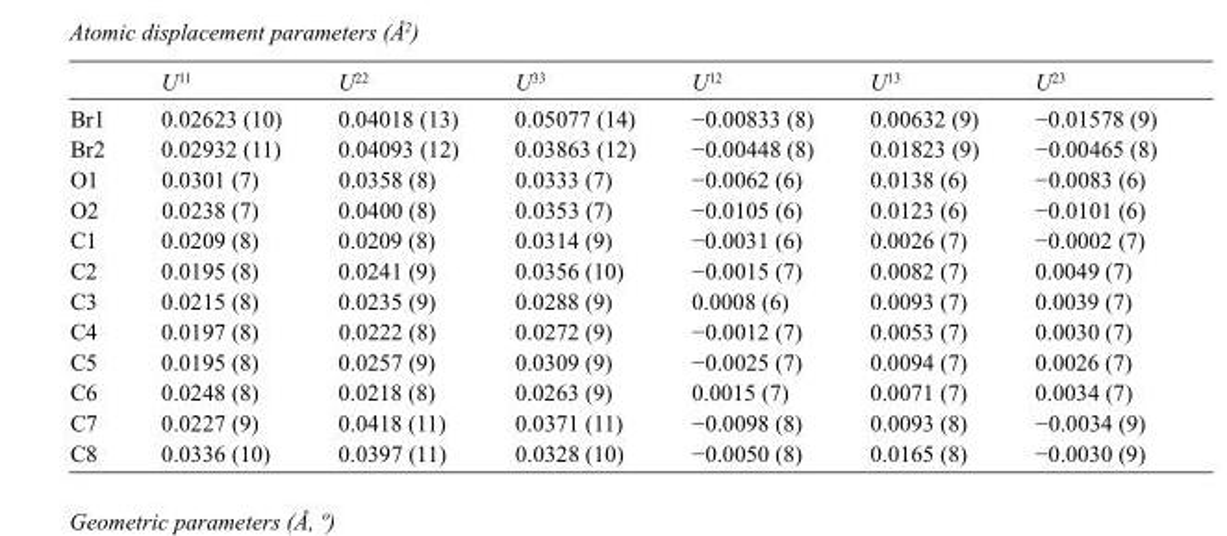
<table><thead><tr><td></td><td>U<sup>11</sup></td><td>U<sup>22</sup></td><td>U<sup>33</sup></td><td>U<sup>12</sup></td><td>U<sup>13</sup></td><td>U<sup>23</sup></td></tr></thead><tbody><tr><td>Br1</td><td>0.02623 (10)</td><td>0.04018 (13)</td><td>0.05077 (14)</td><td>−0.00833 (8)</td><td>0.00632 (9)</td><td>−0.01578 (9)</td></tr><tr><td>Br2</td><td>0.02932 (11)</td><td>0.04093 (12)</td><td>0.03863 (12)</td><td>−0.00448 (8)</td><td>0.01823 (9)</td><td>−0.00465 (8)</td></tr><tr><td>O1</td><td>0.0301 (7)</td><td>0.0358 (8)</td><td>0.0333 (7)</td><td>−0.0062 (6)</td><td>0.0138 (6)</td><td>−0.0083 (6)</td></tr><tr><td>O2</td><td>0.0238 (7)</td><td>0.0400 (8)</td><td>0.0353 (7)</td><td>−0.0105 (6)</td><td>0.0123 (6)</td><td>−0.0101 (6)</td></tr><tr><td>C1</td><td>0.0209 (8)</td><td>0.0209 (8)</td><td>0.0314 (9)</td><td>−0.0031 (6)</td><td>0.0026 (7)</td><td>−0.0002 (7)</td></tr><tr><td>C2</td><td>0.0195 (8)</td><td>0.0241 (9)</td><td>0.0356 (10)</td><td>−0.0015 (7)</td><td>0.0082 (7)</td><td>0.0049 (7)</td></tr><tr><td>C3</td><td>0.0215 (8)</td><td>0.0235 (9)</td><td>0.0288 (9)</td><td>0.0008 (6)</td><td>0.0093 (7)</td><td>0.0039 (7)</td></tr><tr><td>C4</td><td>0.0197 (8)</td><td>0.0222 (8)</td><td>0.0272 (9)</td><td>−0.0012 (7)</td><td>0.0053 (7)</td><td>0.0030 (7)</td></tr><tr><td>C5</td><td>0.0195 (8)</td><td>0.0257 (9)</td><td>0.0309 (9)</td><td>−0.0025 (7)</td><td>0.0094 (7)</td><td>0.0026 (7)</td></tr><tr><td>C6</td><td>0.0248 (8)</td><td>0.0218 (8)</td><td>0.0263 (9)</td><td>0.0015 (7)</td><td>0.0071 (7)</td><td>0.0034 (7)</td></tr><tr><td>C7</td><td>0.0227 (9)</td><td>0.0418 (11)</td><td>0.0371 (11)</td><td>−0.0098 (8)</td><td>0.0093 (8)</td><td>−0.0034 (9)</td></tr><tr><td>C8</td><td>0.0336 (10)</td><td>0.0397 (11)</td><td>0.0328 (10)</td><td>−0.0050 (8)</td><td>0.0165 (8)</td><td>−0.0030 (9)</td></tr></tbody></table>